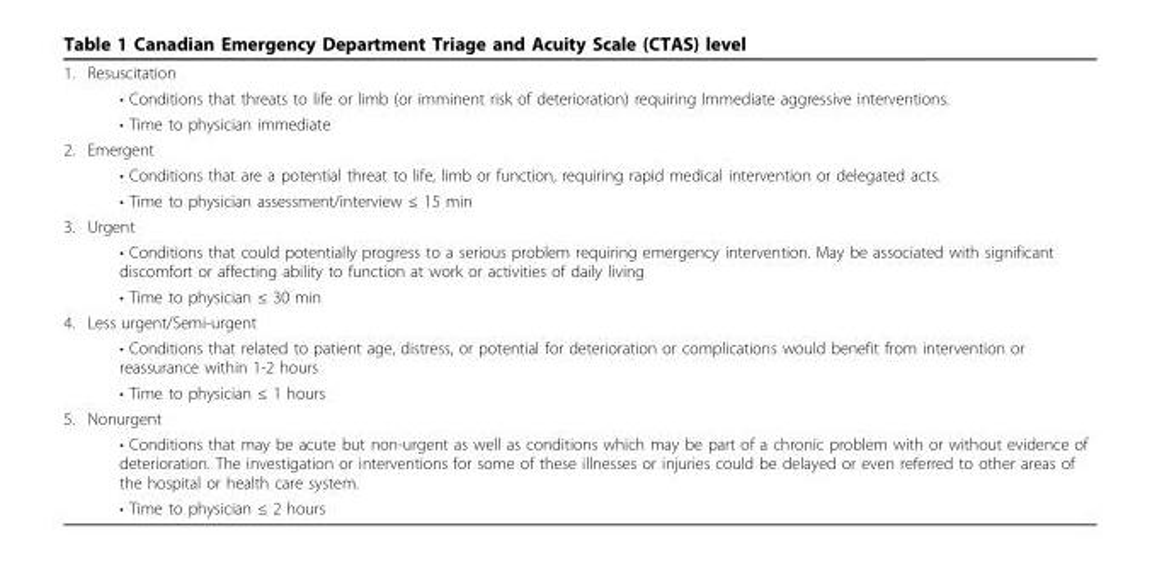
<table><tbody><tr><td rowspan="3">1.</td><td>Resuscitation</td></tr><tr><td>• Conditions that threats to life or limb (or imminent risk of deterioration) requiring Immediate aggressive interventions.</td></tr><tr><td>• Time to physician immediate</td></tr><tr><td rowspan="3">2.</td><td>Emergent</td></tr><tr><td>• Conditions that are a potential threat to life, limb or function, requiring rapid medical intervention or delegated acts.</td></tr><tr><td>• Time to physician assessment/interview ≤ 15 min</td></tr><tr><td rowspan="3">3.</td><td>Urgent</td></tr><tr><td>• Conditions that could potentially progress to a serious problem requiring emergency intervention. May be associated with significant discomfort or affecting ability to function at work or activities of daily living</td></tr><tr><td>• Time to physician ≤ 30 min</td></tr><tr><td rowspan="3">4.</td><td>Less urgent/Semi-urgent</td></tr><tr><td>• Conditions that related to patient age, distress, or potential for deterioration or complications would benefit from intervention or reassurance within 1-2 hours</td></tr><tr><td>• Time to physician ≤ 1 hours</td></tr><tr><td rowspan="3">5.</td><td>Nonurgent</td></tr><tr><td>• Conditions that may be acute but non-urgent as well as conditions which may be part of a chronic problem with or without evidence of deterioration. The investigation or interventions for some of these illnesses or injuries could be delayed or even referred to other areas of the hospital or health care system.</td></tr><tr><td>• Time to physician ≤ 2 hours</td></tr></tbody></table>